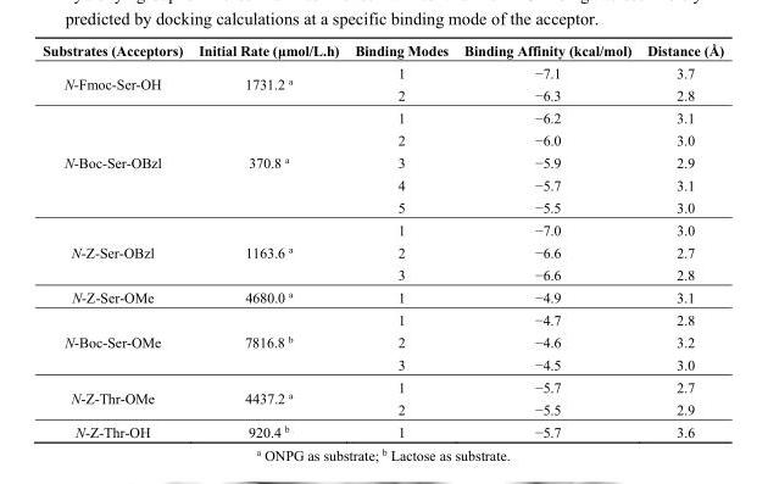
<table><thead><tr><td>Substrates (Acceptors)</td><td>Initial Rate (μmol/L.h)</td><td>Binding Modes</td><td>Binding Affinity (kcal/mol)</td><td>Distance (Å)</td></tr></thead><tbody><tr><td rowspan="2">N-Fmoc-Ser-OH</td><td rowspan="2">1731.2 <sup>a</sup></td><td>1</td><td>−7.1</td><td>3.7</td></tr><tr><td>2</td><td>−6.3</td><td>2.8</td></tr><tr><td rowspan="5">N-Boc-Ser-OBzl</td><td rowspan="5">370.8 <sup>a</sup></td><td>1</td><td>−6.2</td><td>3.1</td></tr><tr><td>2</td><td>−6.0</td><td>3.0</td></tr><tr><td>3</td><td>−5.9</td><td>2.9</td></tr><tr><td>4</td><td>−5.7</td><td>3.1</td></tr><tr><td>5</td><td>−5.5</td><td>3.0</td></tr><tr><td rowspan="3">N-Z-Ser-OBzl</td><td rowspan="3">1163.6 <sup>a</sup></td><td>1</td><td>−7.0</td><td>3.0</td></tr><tr><td>2</td><td>−6.6</td><td>2.7</td></tr><tr><td>3</td><td>−6.6</td><td>2.8</td></tr><tr><td>N-Z-Ser-OMe</td><td>4680.0 <sup>a</sup></td><td>1</td><td>−4.9</td><td>3.1</td></tr><tr><td rowspan="3">N-Boc-Ser-OMe</td><td rowspan="3">7816.8 <sup>b</sup></td><td>1</td><td>−4.7</td><td>2.8</td></tr><tr><td>2</td><td>−4.6</td><td>3.2</td></tr><tr><td>3</td><td>−4.5</td><td>3.0</td></tr><tr><td rowspan="2">N-Z-Thr-OMe</td><td rowspan="2">4437.2 <sup>a</sup></td><td>1</td><td>−5.7</td><td>2.7</td></tr><tr><td>2</td><td>−5.5</td><td>2.9</td></tr><tr><td>N-Z-Thr-OH</td><td>920.4 <sup>b</sup></td><td>1</td><td>−5.7</td><td>3.6</td></tr></tbody></table>